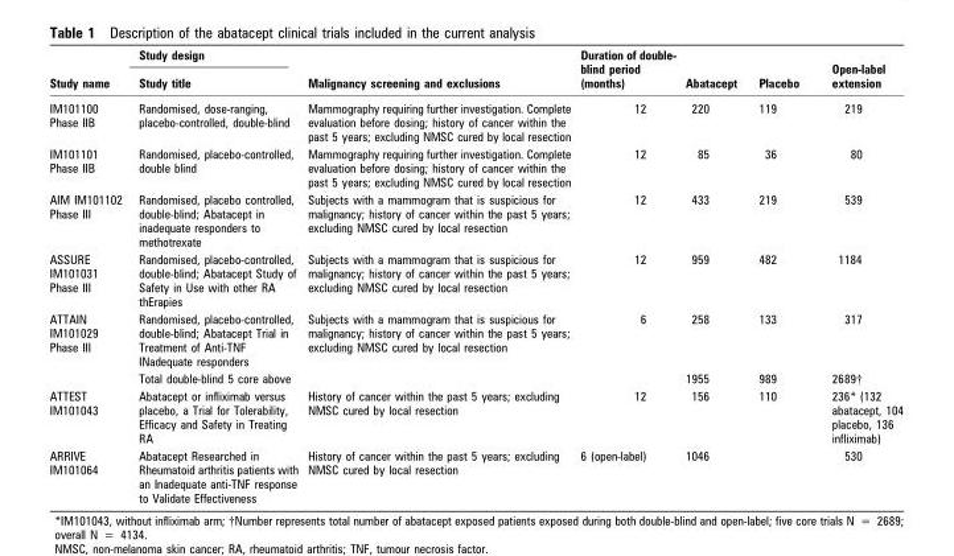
<table><thead><tr><td rowspan="2">Study name</td><td rowspan="2">Study design Study title</td><td rowspan="2">Malignancy screening and exclusions</td><td rowspan="2">Duration of double- blind period (months)</td><td rowspan="2">Abatacept</td><td rowspan="2">Placebo</td><td rowspan="2">Open-label extension</td></tr><tr></tr></thead><tbody><tr><td>IM101100 Phase IIB</td><td>Randomised, dose-ranging, placebo-controlled, double-blind</td><td>Mammography requiring further investigation. Complete evaluation before dosing; history of cancer within the past 5 years; excluding NMSC cured by local resection</td><td>12</td><td>220</td><td>119</td><td>219</td></tr><tr><td>IM101101 Phase IIB</td><td>Randomised, placebo-controlled, double blind</td><td>Mammography requiring further investigation. Complete evaluation before dosing; history of cancer within the past 5 years; excluding NMSC cured by local resection</td><td>12</td><td>85</td><td>36</td><td>80</td></tr><tr><td>AIM IM101102 Phase III</td><td>Randomised, placebo controlled, double-blind; Abatacept in inadequate responders to methotrexate</td><td>Subjects with a mammogram that is suspicious for malignancy; history of cancer within the past 5 years; excluding NMSC cured by local resection</td><td>12</td><td>433</td><td>219</td><td>539</td></tr><tr><td>ASSURE IM101031 Phase III</td><td>Randomised, placebo-controlled, double-blind; Abatacept Study of Safety in Use with other RA thErapies</td><td>Subjects with a mammogram that is suspicious for malignancy; history of cancer within the past 5 years; excluding NMSC cured by local resection</td><td>12</td><td>959</td><td>482</td><td>1184</td></tr><tr><td rowspan="2">ATTAIN IM101029 Phase III</td><td>Randomised, placebo-controlled, double-blind; Abatacept Trial in Treatment of Anti-TNF INadequate responders</td><td>Subjects with a mammogram that is suspicious for malignancy; history of cancer within the past 5 years; excluding NMSC cured by local resection</td><td>6</td><td>258</td><td>133</td><td>317</td></tr><tr><td>Total double-blind 5 core above</td><td></td><td></td><td>1955</td><td>989</td><td>2689†</td></tr><tr><td>ATTEST IM101043</td><td>Abatacept or infliximab versus placebo, a Trial for Tolerability, Efficacy and Safety in Treating RA</td><td>History of cancer within the past 5 years; excluding NMSC cured by local resection</td><td>12</td><td>156</td><td>110</td><td>236* (132 abatacept, 104 placebo, 136 infliximab)</td></tr><tr><td>ARRIVE IM101064</td><td>Abatacept Researched in Rheumatoid arthritis patients with an Inadequate anti-TNF response to Validate Effectiveness</td><td>History of cancer within the past 5 years; excluding NMSC cured by local resection</td><td>6 (open-label)</td><td>1046</td><td></td><td>530</td></tr></tbody></table>